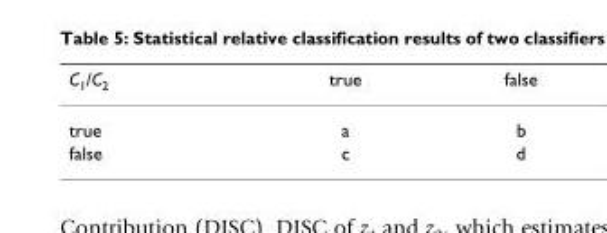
<table><thead><tr><td>C<sub>1</sub>/C<sub>2</sub></td><td>true</td><td>false</td></tr></thead><tbody><tr><td>true</td><td>a</td><td>b</td></tr><tr><td>false</td><td>c</td><td>d</td></tr></tbody></table>